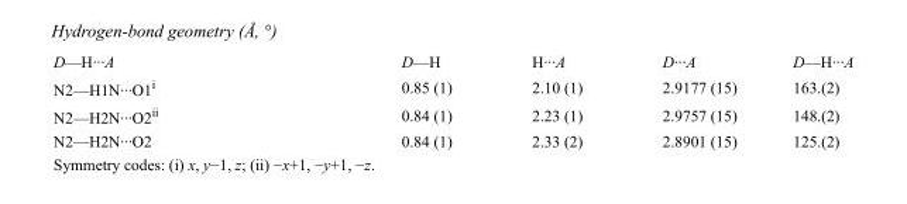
<table><tbody><tr><td>D—H···A</td><td>D—H</td><td>H···A</td><td>D···A</td><td>D—H···A</td></tr><tr><td>N2—H1N···O1<sup>i</sup></td><td>0.85 (1)</td><td>2.10 (1)</td><td>2.9177 (15)</td><td>163.(2)</td></tr><tr><td>N2—H2N···O2<sup>ii</sup></td><td>0.84 (1)</td><td>2.23 (1)</td><td>2.9757 (15)</td><td>148.(2)</td></tr><tr><td>N2—H2N···O2</td><td>0.84 (1)</td><td>2.33 (2)</td><td>2.8901 (15)</td><td>125.(2)</td></tr></tbody></table>